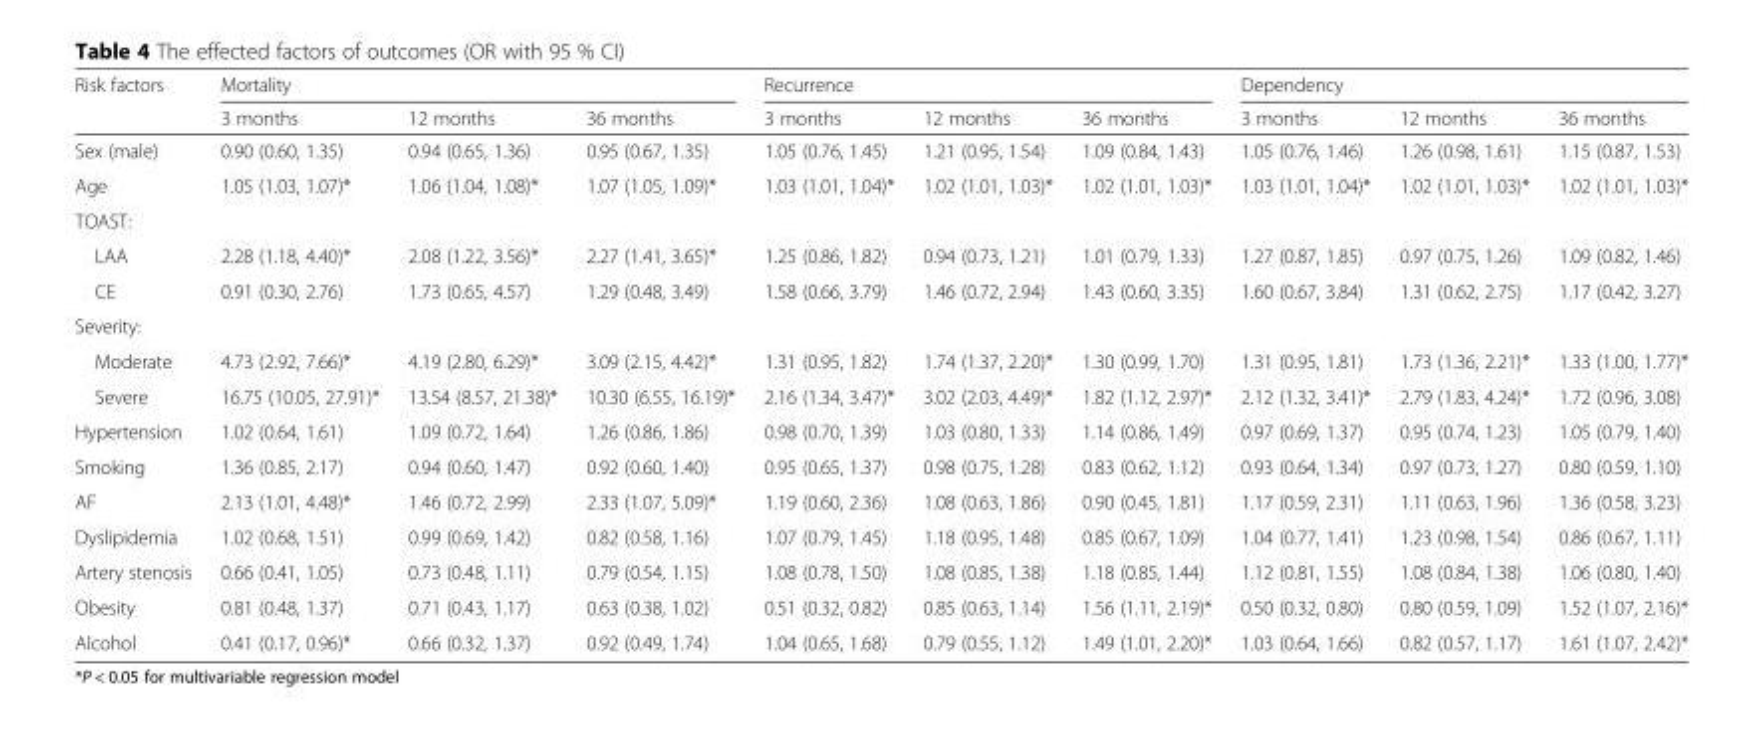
<table><thead><tr><td rowspan="2">Risk factors</td><td colspan="3">Mortality</td><td colspan="3">Recurrence</td><td colspan="3">Dependency</td></tr><tr><td>3 months</td><td>12 months</td><td>36 months</td><td>3 months</td><td>12 months</td><td>36 months</td><td>3 months</td><td>12 months</td><td>36 months</td></tr></thead><tbody><tr><td>Sex (male)</td><td>0.90 (0.60, 1.35)</td><td>0.94 (0.65, 1.36)</td><td>0.95 (0.67, 1.35)</td><td>1.05 (0.76, 1.45)</td><td>1.21 (0.95, 1.54)</td><td>1.09 (0.84, 1.43)</td><td>1.05 (0.76, 1.46)</td><td>1.26 (0.98, 1.61)</td><td>1.15 (0.87, 1.53)</td></tr><tr><td>Age</td><td>1.05 (1.03, 1.07)*</td><td>1.06 (1.04, 1.08)*</td><td>1.07 (1.05, 1.09)*</td><td>1.03 (1.01, 1.04)*</td><td>1.02 (1.01, 1.03)*</td><td>1.02 (1.01, 1.03)*</td><td>1.03 (1.01, 1.04)*</td><td>1.02 (1.01, 1.03)*</td><td>1.02 (1.01, 1.03)*</td></tr><tr><td colspan="10">TOAST:</td></tr><tr><td>LAA</td><td>2.28 (1.18, 4.40)*</td><td>2.08 (1.22, 3.56)*</td><td>2.27 (1.41, 3.65)*</td><td>1.25 (0.86, 1.82)</td><td>0.94 (0.73, 1.21)</td><td>1.01 (0.79, 1.33)</td><td>1.27 (0.87, 1.85)</td><td>0.97 (0.75, 1.26)</td><td>1.09 (0.82, 1.46)</td></tr><tr><td>CE</td><td>0.91 (0.30, 2.76)</td><td>1.73 (0.65, 4.57)</td><td>1.29 (0.48, 3.49)</td><td>1.58 (0.66, 3.79)</td><td>1.46 (0.72, 2.94)</td><td>1.43 (0.60, 3.35)</td><td>1.60 (0.67, 3.84)</td><td>1.31 (0.62, 2.75)</td><td>1.17 (0.42, 3.27)</td></tr><tr><td colspan="10">Severity:</td></tr><tr><td>Moderate</td><td>4.73 (2.92, 7.66)*</td><td>4.19 (2.80, 6.29)*</td><td>3.09 (2.15, 4.42)*</td><td>1.31 (0.95, 1.82)</td><td>1.74 (1.37, 2.20)*</td><td>1.30 (0.99, 1.70)</td><td>1.31 (0.95, 1.81)</td><td>1.73 (1.36, 2.21)*</td><td>1.33 (1.00, 1.77)*</td></tr><tr><td>Severe</td><td>16.75 (10.05, 27.91)*</td><td>13.54 (8.57, 21.38)*</td><td>10.30 (6.55, 16.19)*</td><td>2.16 (1.34, 3.47)*</td><td>3.02 (2.03, 4.49)*</td><td>1.82 (1.12, 2.97)*</td><td>2.12 (1.32, 3.41)*</td><td>2.79 (1.83, 4.24)*</td><td>1.72 (0.96, 3.08)</td></tr><tr><td>Hypertension</td><td>1.02 (0.64, 1.61)</td><td>1.09 (0.72, 1.64)</td><td>1.26 (0.86, 1.86)</td><td>0.98 (0.70, 1.39)</td><td>1.03 (0.80, 1.33)</td><td>1.14 (0.86, 1.49)</td><td>0.97 (0.69, 1.37)</td><td>0.95 (0.74, 1.23)</td><td>1.05 (0.79, 1.40)</td></tr><tr><td>Smoking</td><td>1.36 (0.85, 2.17)</td><td>0.94 (0.60, 1.47)</td><td>0.92 (0.60, 1.40)</td><td>0.95 (0.65, 1.37)</td><td>0.98 (0.75, 1.28)</td><td>0.83 (0.62, 1.12)</td><td>0.93 (0.64, 1.34)</td><td>0.97 (0.73, 1.27)</td><td>0.80 (0.59, 1.10)</td></tr><tr><td>AF</td><td>2.13 (1.01, 4.48)*</td><td>1.46 (0.72, 2.99)</td><td>2.33 (1.07, 5.09)*</td><td>1.19 (0.60, 2.36)</td><td>1.08 (0.63, 1.86)</td><td>0.90 (0.45, 1.81)</td><td>1.17 (0.59, 2.31)</td><td>1.11 (0.63, 1.96)</td><td>1.36 (0.58, 3.23)</td></tr><tr><td>Dyslipidemia</td><td>1.02 (0.68, 1.51)</td><td>0.99 (0.69, 1.42)</td><td>0.82 (0.58, 1.16)</td><td>1.07 (0.79, 1.45)</td><td>1.18 (0.95, 1.48)</td><td>0.85 (0.67, 1.09)</td><td>1.04 (0.77, 1.41)</td><td>1.23 (0.98, 1.54)</td><td>0.86 (0.67, 1.11)</td></tr><tr><td>Artery stenosis</td><td>0.66 (0.41, 1.05)</td><td>0.73 (0.48, 1.11)</td><td>0.79 (0.54, 1.15)</td><td>1.08 (0.78, 1.50)</td><td>1.08 (0.85, 1.38)</td><td>1.18 (0.85, 1.44)</td><td>1.12 (0.81, 1.55)</td><td>1.08 (0.84, 1.38)</td><td>1.06 (0.80, 1.40)</td></tr><tr><td>Obesity</td><td>0.81 (0.48, 1.37)</td><td>0.71 (0.43, 1.17)</td><td>0.63 (0.38, 1.02)</td><td>0.51 (0.32, 0.82)</td><td>0.85 (0.63, 1.14)</td><td>1.56 (1.11, 2.19)*</td><td>0.50 (0.32, 0.80)</td><td>0.80 (0.59, 1.09)</td><td>1.52 (1.07, 2.16)*</td></tr><tr><td>Alcohol</td><td>0.41 (0.17, 0.96)*</td><td>0.66 (0.32, 1.37)</td><td>0.92 (0.49, 1.74)</td><td>1.04 (0.65, 1.68)</td><td>0.79 (0.55, 1.12)</td><td>1.49 (1.01, 2.20)*</td><td>1.03 (0.64, 1.66)</td><td>0.82 (0.57, 1.17)</td><td>1.61 (1.07, 2.42)*</td></tr></tbody></table>